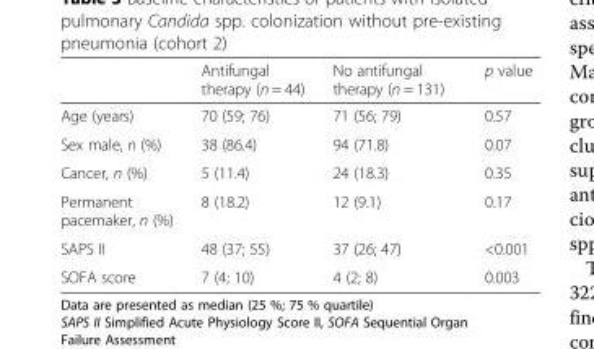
<table><thead><tr><td></td><td>Antifungal therapy (n = 44)</td><td>No antifungal therapy (n = 131)</td><td>p value</td></tr></thead><tbody><tr><td>Age (years)</td><td>70 (59; 76)</td><td>71 (56; 79)</td><td>0.57</td></tr><tr><td>Sex male, n (%)</td><td>38 (86.4)</td><td>94 (71.8)</td><td>0.07</td></tr><tr><td>Cancer, n (%)</td><td>5 (11.4)</td><td>24 (18.3)</td><td>0.35</td></tr><tr><td>Permanent pacemaker, n (%)</td><td>8 (18.2)</td><td>12 (9.1)</td><td>0.17</td></tr><tr><td>SAPS II</td><td>48 (37; 55)</td><td>37 (26; 47)</td><td>&lt;0.001</td></tr><tr><td>SOFA score</td><td>7 (4; 10)</td><td>4 (2; 8)</td><td>0.003</td></tr></tbody></table>